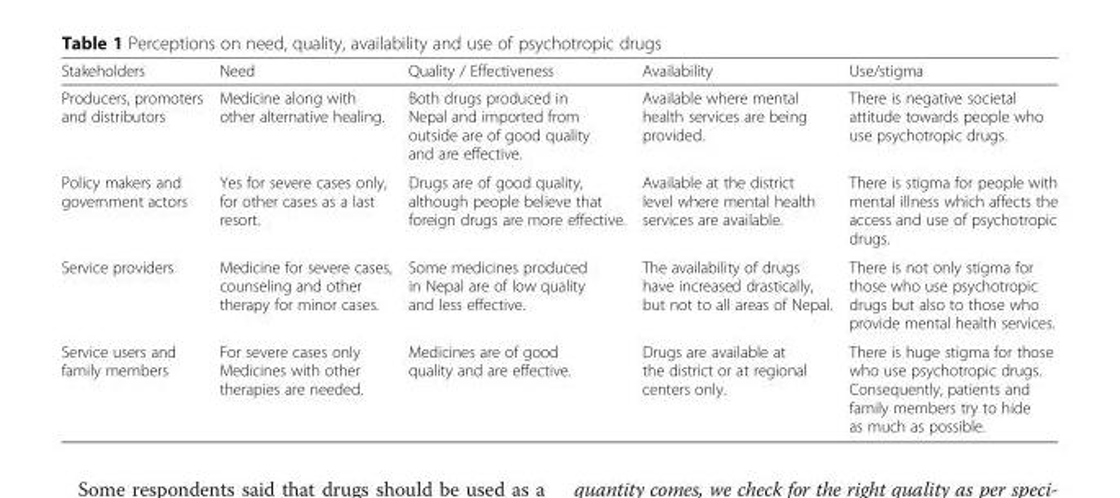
<table><thead><tr><td>Stakeholders</td><td>Need</td><td>Quality / Effectiveness</td><td>Availability</td><td>Use/stigma</td></tr></thead><tbody><tr><td>Producers, promoters and distributors</td><td>Medicine along with other alternative healing.</td><td>Both drugs produced in Nepal and imported from outside are of good quality and are effective.</td><td>Available where mental health services are being provided.</td><td>There is negative societal attitude towards people who use psychotropic drugs.</td></tr><tr><td>Policy makers and government actors</td><td>Yes for severe cases only, for other cases as a last resort.</td><td>Drugs are of good quality, although people believe that foreign drugs are more effective.</td><td>Available at the district level where mental health services are available.</td><td>There is stigma for people with mental illness which affects the access and use of psychotropic drugs.</td></tr><tr><td>Service providers</td><td>Medicine for severe cases, counseling and other therapy for minor cases.</td><td>Some medicines produced in Nepal are of low quality and less effective.</td><td>The availability of drugs have increased drastically, but not to all areas of Nepal.</td><td>There is not only stigma for those who use psychotropic drugs but also to those who provide mental health services.</td></tr><tr><td>Service users and family members</td><td>For severe cases only Medicines with other therapies are needed.</td><td>Medicines are of good quality and are effective.</td><td>Drugs are available at the district or at regional centers only.</td><td>There is huge stigma for those who use psychotropic drugs. Consequently, patients and family members try to hide as much as possible.</td></tr></tbody></table>